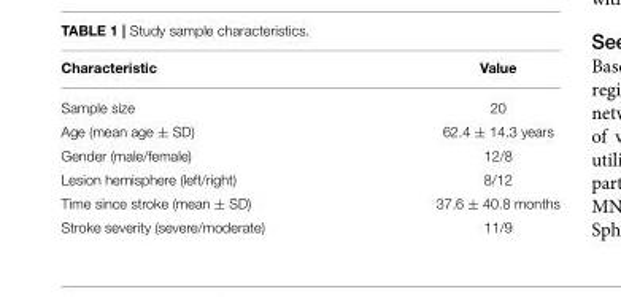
<table><thead><tr><td>Characteristic</td><td>Value</td></tr></thead><tbody><tr><td>Sample size</td><td>20</td></tr><tr><td>Age (mean age ± SD)</td><td>62.4 ± 14.3 years</td></tr><tr><td>Gender (male/female)</td><td>12/8</td></tr><tr><td>Lesion hemisphere (left/right)</td><td>8/12</td></tr><tr><td>Time since stroke (mean ± SD)</td><td>37.6 ± 40.8 months</td></tr><tr><td>Stroke severity (severe/moderate)</td><td>11/9</td></tr></tbody></table>